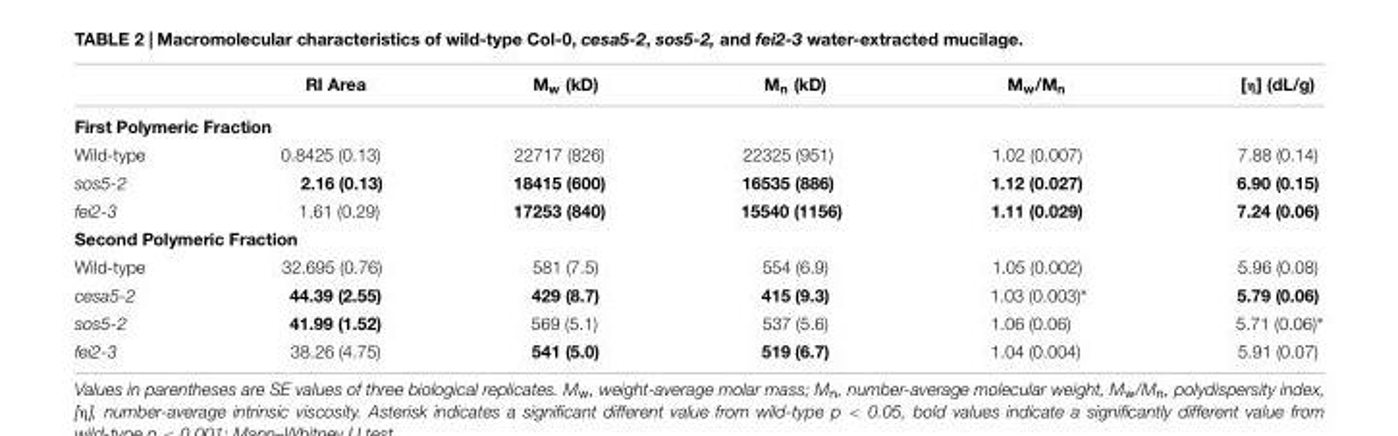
<table><thead><tr><td></td><td>RI Area</td><td>M<sub>w</sub> (kD)</td><td>M<sub>n</sub> (kD)</td><td>M<sub>w</sub>/M<sub>n</sub></td><td>[η] (dL/g)</td></tr></thead><tbody><tr><td colspan="6">First Polymeric Fraction</td></tr><tr><td>Wild-type</td><td>0.8425 (0.13)</td><td>22717 (826)</td><td>22325 (951)</td><td>1.02 (0.007)</td><td>7.88 (0.14)</td></tr><tr><td>sos5-2</td><td>2.16 (0.13)</td><td>18415 (600)</td><td>16535 (886)</td><td>1.12 (0.027)</td><td>6.90 (0.15)</td></tr><tr><td>fei2-3</td><td>1.61 (0.29)</td><td>17253 (840)</td><td>15540 (1156)</td><td>1.11 (0.029)</td><td>7.24 (0.06)</td></tr><tr><td colspan="6">Second Polymeric Fraction</td></tr><tr><td>Wild-type</td><td>32.695 (0.76)</td><td>581 (7.5)</td><td>554 (6.9)</td><td>1.05 (0.002)</td><td>5.96 (0.08)</td></tr><tr><td>cesa5-2</td><td>44.39 (2.55)</td><td>429 (8.7)</td><td>415 (9.3)</td><td>1.03 (0.003)∗</td><td>5.79 (0.06)</td></tr><tr><td>sos5-2</td><td>41.99 (1.52)</td><td>569 (5.1)</td><td>537 (5.6)</td><td>1.06 (0.06)</td><td>5.71 (0.06)∗</td></tr><tr><td>fei2-3</td><td>38.26 (4.75)</td><td>541 (5.0)</td><td>519 (6.7)</td><td>1.04 (0.004)</td><td>5.91 (0.07)</td></tr></tbody></table>